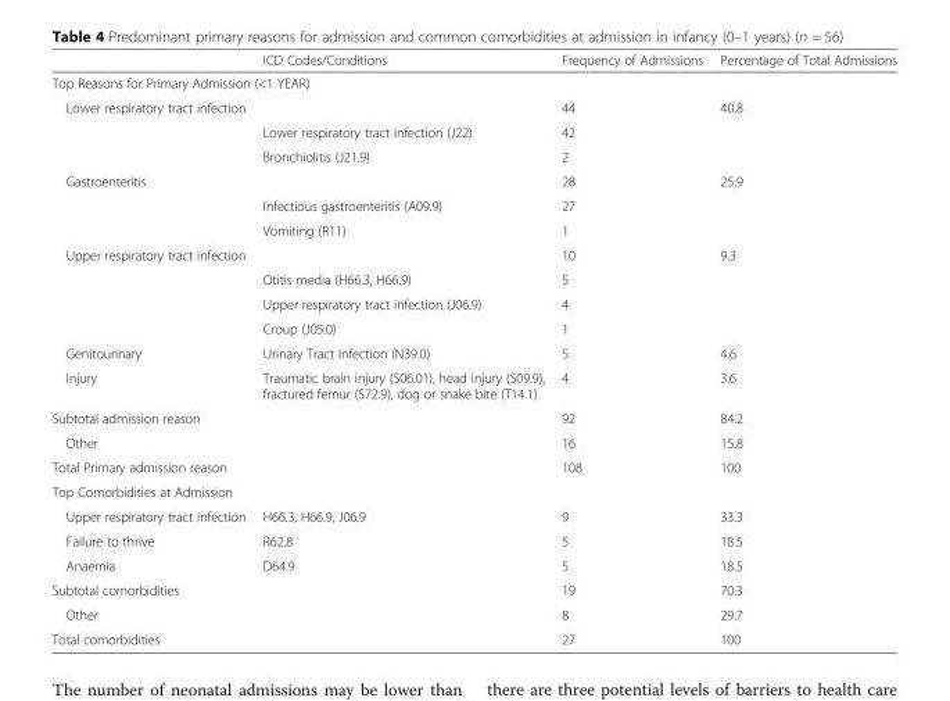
<table><thead><tr><td></td><td>ICD Codes/Conditions</td><td>Frequency of Admissions</td><td>Percentage of Total Admissions</td></tr></thead><tbody><tr><td colspan="4">Top Reasons for Primary Admission (&lt;1 YEAR)</td></tr><tr><td rowspan="3">Lower respiratory tract infection</td><td></td><td>44</td><td>40.8</td></tr><tr><td>Lower respiratory tract infection (J22)</td><td>42</td><td></td></tr><tr><td>Bronchiolitis (J21.9)</td><td>2</td><td></td></tr><tr><td rowspan="3">Gastroenteritis</td><td></td><td>28</td><td>25.9</td></tr><tr><td>Infectious gastroenteritis (A09.9)</td><td>27</td><td></td></tr><tr><td>Vomiting (R11)</td><td>1</td><td></td></tr><tr><td rowspan="4">Upper respiratory tract infection</td><td></td><td>10</td><td>9.3</td></tr><tr><td>Otitis media (H66.3, H66.9)</td><td>5</td><td></td></tr><tr><td>Upper respiratory tract infection (J06.9)</td><td>4</td><td></td></tr><tr><td>Croup (J05.0)</td><td>1</td><td></td></tr><tr><td>Genitourinary</td><td>Urinary Tract Infection (N39.0)</td><td>5</td><td>4.6</td></tr><tr><td>Injury</td><td>Traumatic brain injury (S06.01), head injury (S09.9), fractured femur (S72.9), dog or snake bite (T14.1)</td><td>4</td><td>3.6</td></tr><tr><td>Subtotal admission reason</td><td></td><td>92</td><td>84.2</td></tr><tr><td>Other</td><td></td><td>16</td><td>15.8</td></tr><tr><td>Total Primary admission reason</td><td></td><td>108</td><td>100</td></tr><tr><td colspan="4">Top Comorbidities at Admission</td></tr><tr><td>Upper respiratory tract infection</td><td>H66.3, H66.9, J06.9</td><td>9</td><td>33.3</td></tr><tr><td>Failure to thrive</td><td>R62.8</td><td>5</td><td>18.5</td></tr><tr><td>Anaemia</td><td>D64.9</td><td>5</td><td>18.5</td></tr><tr><td>Subtotal comorbidities</td><td></td><td>19</td><td>70.3</td></tr><tr><td>Other</td><td></td><td>8</td><td>29.7</td></tr><tr><td>Total comorbidities</td><td></td><td>27</td><td>100</td></tr></tbody></table>